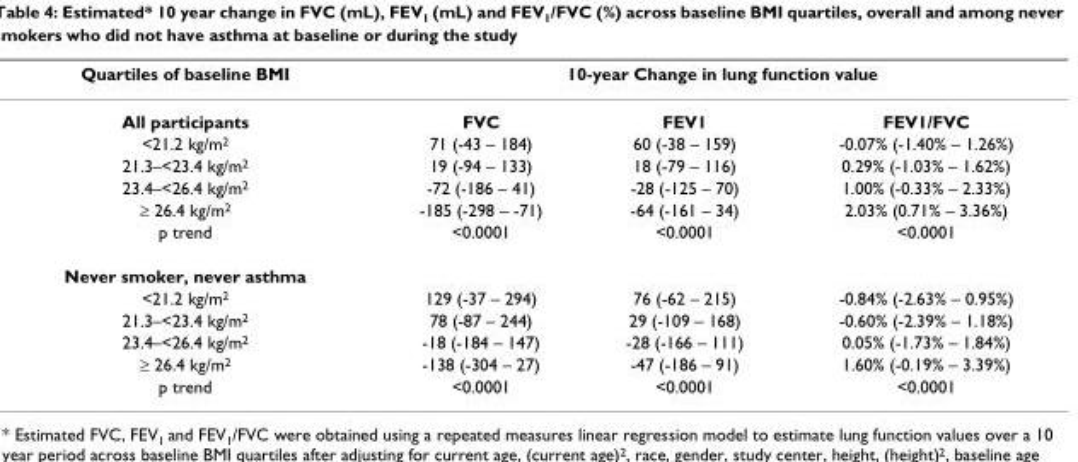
<table><thead><tr><td rowspan="2">Quartiles of baseline BMI All participants</td><td colspan="3">10-year Change in lung function value</td></tr><tr><td>FVC</td><td>FEV1</td><td>FEV1/FVC</td></tr></thead><tbody><tr><td>&lt;21.2 kg/m<sup>2</sup></td><td>71 (-43 – 184)</td><td>60 (-38 – 159)</td><td>-0.07% (-1.40% – 1.26%)</td></tr><tr><td>21.3–&lt;23.4 kg/m<sup>2</sup></td><td>19 (-94 – 133)</td><td>18 (-79 – 116)</td><td>0.29% (-1.03% – 1.62%)</td></tr><tr><td>23.4–&lt;26.4 kg/m<sup>2</sup></td><td>-72 (-186 – 41)</td><td>-28 (-125 – 70)</td><td>1.00% (-0.33% – 2.33%)</td></tr><tr><td>≥ 26.4 kg/m<sup>2</sup></td><td>-185 (-298 – -71)</td><td>-64 (-161 – 34)</td><td>2.03% (0.71% – 3.36%)</td></tr><tr><td>p trend</td><td>&lt;0.0001</td><td>&lt;0.0001</td><td>&lt;0.0001</td></tr><tr><td colspan="4">Never smoker, never asthma</td></tr><tr><td>&lt;21.2 kg/m<sup>2</sup></td><td>129 (-37 – 294)</td><td>76 (-62 – 215)</td><td>-0.84% (-2.63% – 0.95%)</td></tr><tr><td>21.3–&lt;23.4 kg/m<sup>2</sup></td><td>78 (-87 – 244)</td><td>29 (-109 – 168)</td><td>-0.60% (-2.39% – 1.18%)</td></tr><tr><td>23.4–&lt;26.4 kg/m<sup>2</sup></td><td>-18 (-184 – 147)</td><td>-28 (-166 – 111)</td><td>0.05% (-1.73% – 1.84%)</td></tr><tr><td>≥ 26.4 kg/m<sup>2</sup></td><td>-138 (-304 – 27)</td><td>-47 (-186 – 91)</td><td>1.60% (-0.19% – 3.39%)</td></tr><tr><td>p trend</td><td>&lt;0.0001</td><td>&lt;0.0001</td><td>&lt;0.0001</td></tr></tbody></table>